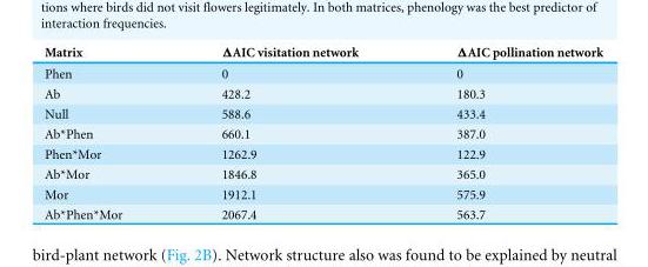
<table><thead><tr><td>Matrix</td><td>ΔAIC visitation network</td><td>ΔAIC pollination network</td></tr></thead><tbody><tr><td>Phen</td><td>0</td><td>0</td></tr><tr><td>Ab</td><td>428.2</td><td>180.3</td></tr><tr><td>Null</td><td>588.6</td><td>433.4</td></tr><tr><td>Ab*Phen</td><td>660.1</td><td>387.0</td></tr><tr><td>Phen*Mor</td><td>1262.9</td><td>122.9</td></tr><tr><td>Ab*Mor</td><td>1846.8</td><td>365.0</td></tr><tr><td>Mor</td><td>1912.1</td><td>575.9</td></tr><tr><td>Ab*Phen*Mor</td><td>2067.4</td><td>563.7</td></tr></tbody></table>